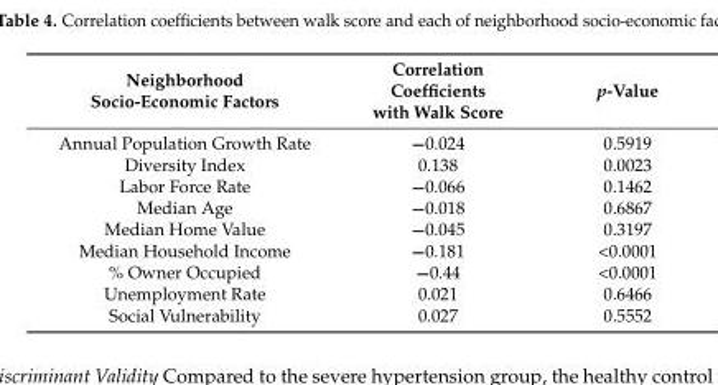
<table><thead><tr><td>Neighborhood Socio-Economic Factors</td><td>Correlation Coefficients with Walk Score</td><td>p-Value</td></tr></thead><tbody><tr><td>Annual Population Growth Rate</td><td>−0.024</td><td>0.5919</td></tr><tr><td>Diversity Index</td><td>0.138</td><td>0.0023</td></tr><tr><td>Labor Force Rate</td><td>−0.066</td><td>0.1462</td></tr><tr><td>Median Age</td><td>−0.018</td><td>0.6867</td></tr><tr><td>Median Home Value</td><td>−0.045</td><td>0.3197</td></tr><tr><td>Median Household Income</td><td>−0.181</td><td>&lt;0.0001</td></tr><tr><td>% Owner Occupied</td><td>−0.44</td><td>&lt;0.0001</td></tr><tr><td>Unemployment Rate</td><td>0.021</td><td>0.6466</td></tr><tr><td>Social Vulnerability</td><td>0.027</td><td>0.5552</td></tr></tbody></table>